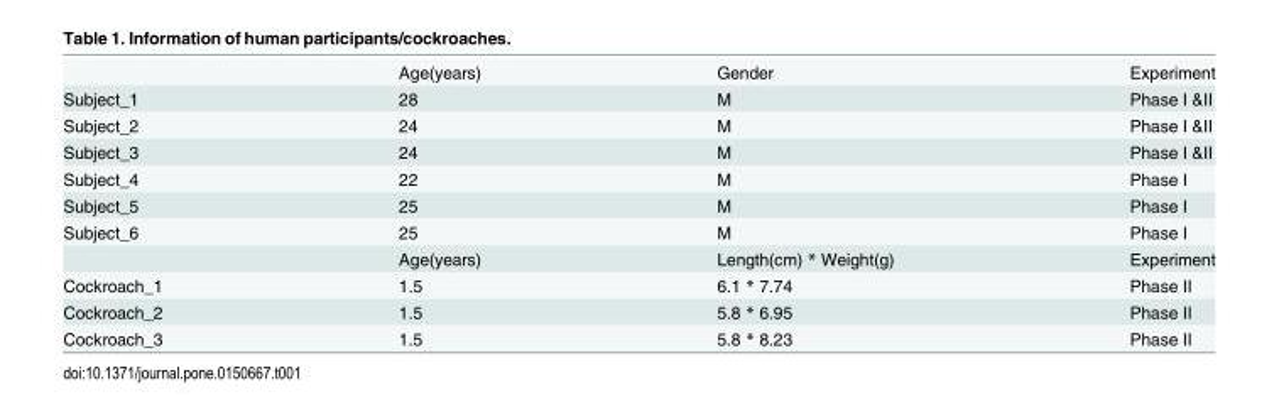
<table><thead><tr><td></td><td>Age(years)</td><td>Gender</td><td>Experiment</td></tr></thead><tbody><tr><td>Subject_1</td><td>28</td><td>M</td><td>Phase I &amp;II</td></tr><tr><td>Subject_2</td><td>24</td><td>M</td><td>Phase I &amp;II</td></tr><tr><td>Subject_3</td><td>24</td><td>M</td><td>Phase I &amp;II</td></tr><tr><td>Subject_4</td><td>22</td><td>M</td><td>Phase I</td></tr><tr><td>Subject_5</td><td>25</td><td>M</td><td>Phase I</td></tr><tr><td rowspan="2">Subject_6</td><td>25</td><td>M</td><td>Phase I</td></tr><tr><td>Age(years)</td><td>Length(cm) * Weight(g)</td><td>Experiment</td></tr><tr><td>Cockroach_1</td><td>1.5</td><td>6.1 * 7.74</td><td>Phase II</td></tr><tr><td>Cockroach_2</td><td>1.5</td><td>5.8 * 6.95</td><td>Phase II</td></tr><tr><td>Cockroach_3</td><td>1.5</td><td>5.8 * 8.23</td><td>Phase II</td></tr></tbody></table>